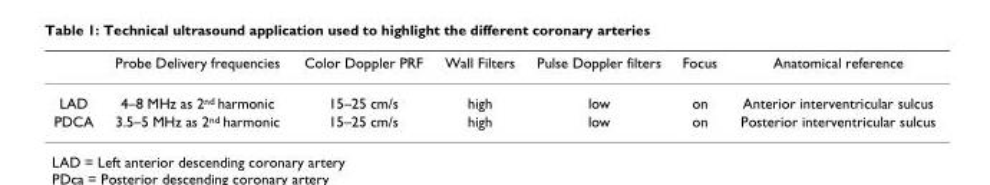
<table><thead><tr><td></td><td>Probe Delivery frequencies</td><td>Color Doppler PRF</td><td>Wall Filters</td><td>Pulse Doppler filters</td><td>Focus</td><td>Anatomical reference</td></tr></thead><tbody><tr><td>LAD</td><td>4–8 MHz as 2<sup>nd</sup> harmonic</td><td>15–25 cm/s</td><td>high</td><td>low</td><td>on</td><td>Anterior interventricular sulcus</td></tr><tr><td>PDCA</td><td>3.5–5 MHz as 2<sup>nd</sup> harmonic</td><td>15–25 cm/s</td><td>high</td><td>low</td><td>on</td><td>Posterior interventricular sulcus</td></tr></tbody></table>